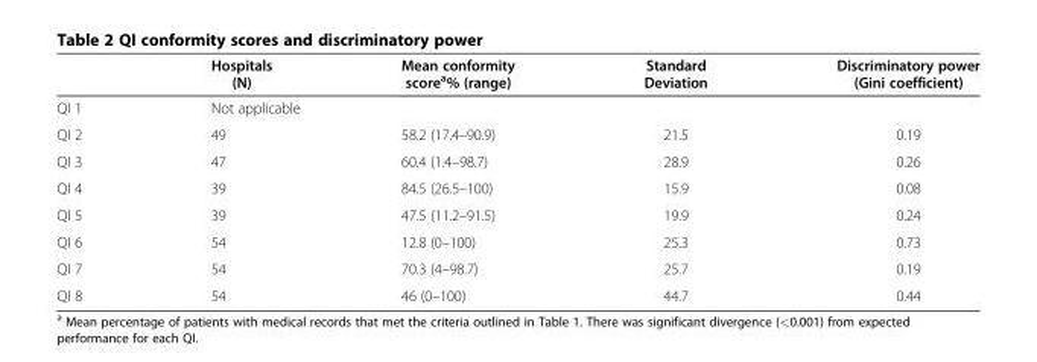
<table><thead><tr><td></td><td>Hospitals (N)</td><td>Mean conformity score<sup>a</sup>% (range)</td><td>Standard Deviation</td><td>Discriminatory power (Gini coefficient)</td></tr></thead><tbody><tr><td>QI 1</td><td>Not applicable</td><td></td><td></td><td></td></tr><tr><td>QI 2</td><td>49</td><td>58.2 (17.4–90.9)</td><td>21.5</td><td>0.19</td></tr><tr><td>QI 3</td><td>47</td><td>60.4 (1.4–98.7)</td><td>28.9</td><td>0.26</td></tr><tr><td>QI 4</td><td>39</td><td>84.5 (26.5–100)</td><td>15.9</td><td>0.08</td></tr><tr><td>QI 5</td><td>39</td><td>47.5 (11.2–91.5)</td><td>19.9</td><td>0.24</td></tr><tr><td>QI 6</td><td>54</td><td>12.8 (0–100)</td><td>25.3</td><td>0.73</td></tr><tr><td>QI 7</td><td>54</td><td>70.3 (4–98.7)</td><td>25.7</td><td>0.19</td></tr><tr><td>QI 8</td><td>54</td><td>46 (0–100)</td><td>44.7</td><td>0.44</td></tr></tbody></table>